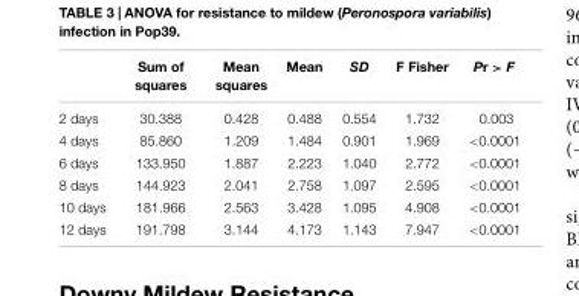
<table><thead><tr><td></td><td>Sum of squares</td><td>Mean squares</td><td>Mean</td><td>SD</td><td>F Fisher</td><td>Pr &gt; F</td></tr></thead><tbody><tr><td>2 days</td><td>30.388</td><td>0.428</td><td>0.488</td><td>0.554</td><td>1.732</td><td>0.003</td></tr><tr><td>4 days</td><td>85.860</td><td>1.209</td><td>1.484</td><td>0.901</td><td>1.969</td><td>&lt;0.0001</td></tr><tr><td>6 days</td><td>133.950</td><td>1.887</td><td>2.223</td><td>1.040</td><td>2.772</td><td>&lt;0.0001</td></tr><tr><td>8 days</td><td>144.923</td><td>2.041</td><td>2.758</td><td>1.097</td><td>2.595</td><td>&lt;0.0001</td></tr><tr><td>10 days</td><td>181.966</td><td>2.563</td><td>3.428</td><td>1.095</td><td>4.908</td><td>&lt;0.0001</td></tr><tr><td>12 days</td><td>191.798</td><td>3.144</td><td>4.173</td><td>1.143</td><td>7.947</td><td>&lt;0.0001</td></tr></tbody></table>